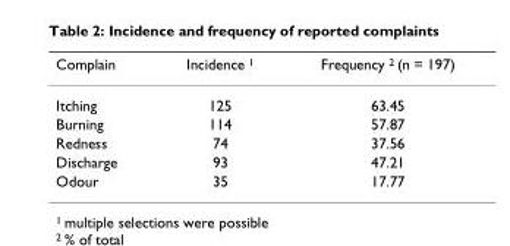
<table><thead><tr><td>Complain</td><td>Incidence <sup>1</sup></td><td>Frequency <sup>2</sup> (n = 197)</td></tr></thead><tbody><tr><td>Itching</td><td>125</td><td>63.45</td></tr><tr><td>Burning</td><td>114</td><td>57.87</td></tr><tr><td>Redness</td><td>74</td><td>37.56</td></tr><tr><td>Discharge</td><td>93</td><td>47.21</td></tr><tr><td>Odour</td><td>35</td><td>17.77</td></tr></tbody></table>